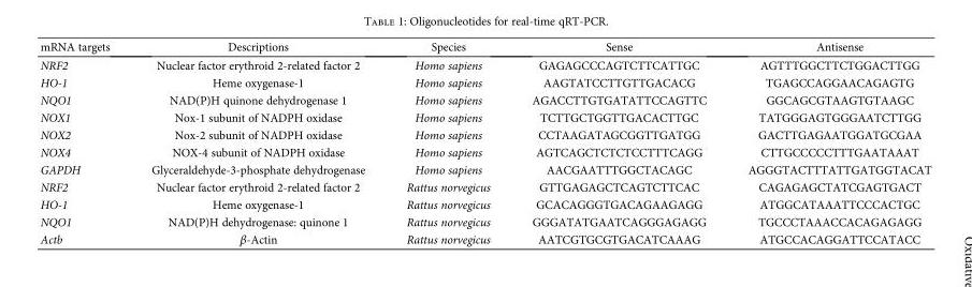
<table><thead><tr><td>mRNA targets</td><td>Descriptions</td><td>Species</td><td>Sense</td><td>Antisense</td></tr></thead><tbody><tr><td>NRF2</td><td>Nuclear factor erythroid 2-related factor 2</td><td>Homo sapiens</td><td>GAGAGCCCAGTCTTCATTGC</td><td>AGTTTGGCTTCTGGACTTGG</td></tr><tr><td>HO-1</td><td>Heme oxygenase-1</td><td>Homo sapiens</td><td>AAGTATCCTTGTTGACACG</td><td>TGAGCCAGGAACAGAGTG</td></tr><tr><td>NQO1</td><td>NAD(P)H quinone dehydrogenase 1</td><td>Homo sapiens</td><td>AGACCTTGTGATATTCCAGTTC</td><td>GGCAGCGTAAGTGTAAGC</td></tr><tr><td>NOX1</td><td>Nox-1 subunit of NADPH oxidase</td><td>Homo sapiens</td><td>TCTTGCTGGTTGACACTTGC</td><td>TATGGGAGTGGGAATCTTGG</td></tr><tr><td>NOX2</td><td>Nox-2 subunit of NADPH oxidase</td><td>Homo sapiens</td><td>CCTAAGATAGCGGTTGATGG</td><td>GACTTGAGAATGGATGCGAA</td></tr><tr><td>NOX4</td><td>NOX-4 subunit of NADPH oxidase</td><td>Homo sapiens</td><td>AGTCAGCTCTCTCCTTTCAGG</td><td>CTTGCCCCCTTTGAATAAAT</td></tr><tr><td>GAPDH</td><td>Glyceraldehyde-3-phosphate dehydrogenase</td><td>Homo sapiens</td><td>AACGAATTTGGCTACAGC</td><td>AGGGTACTTTATTGATGGTACAT</td></tr><tr><td>NRF2</td><td>Nuclear factor erythroid 2-related factor 2</td><td>Rattus norvegicus</td><td>GTTGAGAGCTCAGTCTTCAC</td><td>CAGAGAGCTATCGAGTGACT</td></tr><tr><td>HO-1</td><td>Heme oxygenase-1</td><td>Rattus norvegicus</td><td>GCACAGGGTGACAGAAGAGG</td><td>ATGGCATAAATTCCCACTGC</td></tr><tr><td>NQO1</td><td>NAD(P)H dehydrogenase: quinone 1</td><td>Rattus norvegicus</td><td>GGGATATGAATCAGGGAGAGG</td><td>TGCCCTAAACCACAGAGAGG</td></tr><tr><td>Actb</td><td>β-Actin</td><td>Rattus norvegicus</td><td>AATCGTGCGTGACATCAAAG</td><td>ATGCCACAGGATTCCATACC</td></tr></tbody></table>